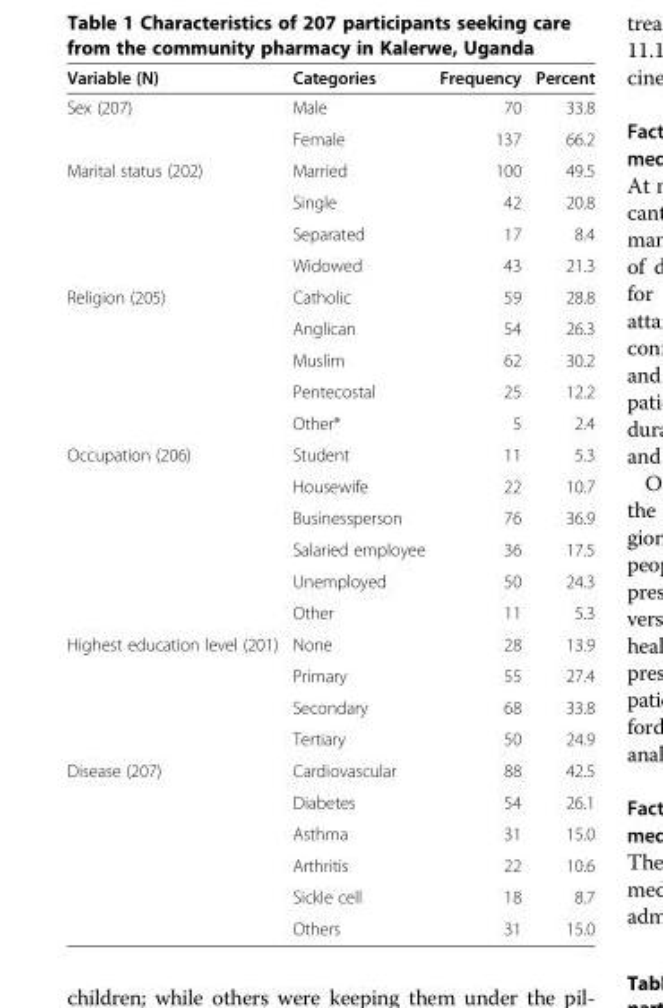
<table><thead><tr><td>Variable (N)</td><td>Categories</td><td>Frequency</td><td>Percent</td></tr></thead><tbody><tr><td rowspan="2">Sex (207)</td><td>Male</td><td>70</td><td>33.8</td></tr><tr><td>Female</td><td>137</td><td>66.2</td></tr><tr><td rowspan="4">Marital status (202)</td><td>Married</td><td>100</td><td>49.5</td></tr><tr><td>Single</td><td>42</td><td>20.8</td></tr><tr><td>Separated</td><td>17</td><td>8.4</td></tr><tr><td>Widowed</td><td>43</td><td>21.3</td></tr><tr><td rowspan="5">Religion (205)</td><td>Catholic</td><td>59</td><td>28.8</td></tr><tr><td>Anglican</td><td>54</td><td>26.3</td></tr><tr><td>Muslim</td><td>62</td><td>30.2</td></tr><tr><td>Pentecostal</td><td>25</td><td>12.2</td></tr><tr><td>Other*</td><td>5</td><td>2.4</td></tr><tr><td rowspan="6">Occupation (206)</td><td>Student</td><td>11</td><td>5.3</td></tr><tr><td>Housewife</td><td>22</td><td>10.7</td></tr><tr><td>Businessperson</td><td>76</td><td>36.9</td></tr><tr><td>Salaried employee</td><td>36</td><td>17.5</td></tr><tr><td>Unemployed</td><td>50</td><td>24.3</td></tr><tr><td>Other</td><td>11</td><td>5.3</td></tr><tr><td rowspan="4">Highest education level (201)</td><td>None</td><td>28</td><td>13.9</td></tr><tr><td>Primary</td><td>55</td><td>27.4</td></tr><tr><td>Secondary</td><td>68</td><td>33.8</td></tr><tr><td>Tertiary</td><td>50</td><td>24.9</td></tr><tr><td rowspan="6">Disease (207)</td><td>Cardiovascular</td><td>88</td><td>42.5</td></tr><tr><td>Diabetes</td><td>54</td><td>26.1</td></tr><tr><td>Asthma</td><td>31</td><td>15.0</td></tr><tr><td>Arthritis</td><td>22</td><td>10.6</td></tr><tr><td>Sickle cell</td><td>18</td><td>8.7</td></tr><tr><td>Others</td><td>31</td><td>15.0</td></tr></tbody></table>